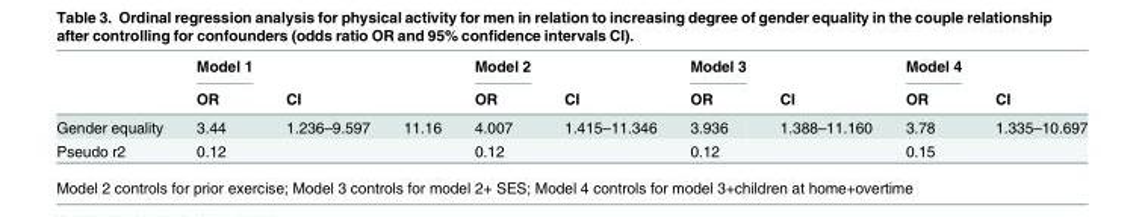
<table><thead><tr><td rowspan="2"></td><td rowspan="2">Model 1 OR</td><td></td><td></td><td rowspan="2">Model 2 OR</td><td rowspan="2">CI</td><td rowspan="2">Model 3 OR</td><td rowspan="2">CI</td><td rowspan="2">Model 4 OR</td><td rowspan="2">CI</td></tr><tr><td colspan="2">CI</td></tr></thead><tbody><tr><td>Gender equality</td><td>3.44</td><td>1.236–9.597</td><td>11.16</td><td>4.007</td><td>1.415–11.346</td><td>3.936</td><td>1.388–11.160</td><td>3.78</td><td>1.335–10.697</td></tr><tr><td>Pseudo r2</td><td>0.12</td><td colspan="2"></td><td>0.12</td><td></td><td>0.12</td><td></td><td>0.15</td><td></td></tr></tbody></table>